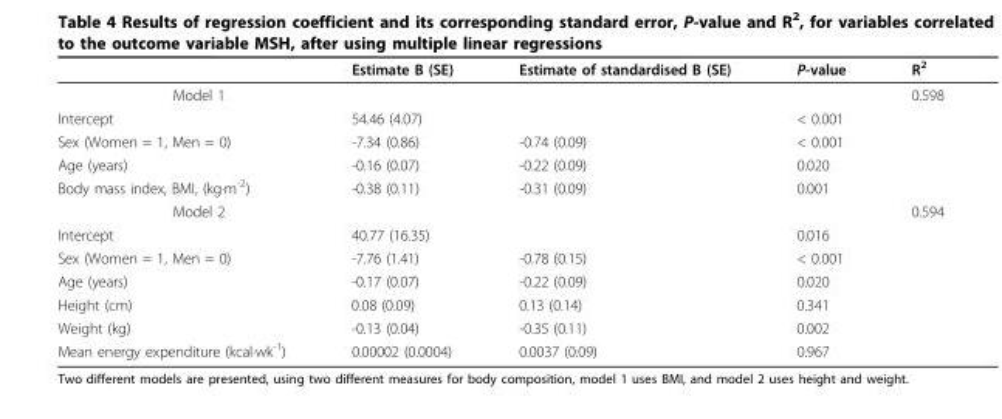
<table><thead><tr><td></td><td>Estimate B (SE)</td><td>Estimate of standardised B (SE)</td><td>P-value</td><td>R<sup>2</sup></td></tr></thead><tbody><tr><td>Model 1</td><td></td><td></td><td></td><td>0.598</td></tr><tr><td>Intercept</td><td>54.46 (4.07)</td><td></td><td>&lt; 0.001</td><td></td></tr><tr><td>Sex (Women = 1, Men = 0)</td><td>-7.34 (0.86)</td><td>-0.74 (0.09)</td><td>&lt; 0.001</td><td></td></tr><tr><td>Age (years)</td><td>-0.16 (0.07)</td><td>-0.22 (0.09)</td><td>0.020</td><td></td></tr><tr><td>Body mass index, BMI, (kg·m<sup>-2</sup>)</td><td>-0.38 (0.11)</td><td>-0.31 (0.09)</td><td>0.001</td><td></td></tr><tr><td>Model 2</td><td></td><td></td><td></td><td>0.594</td></tr><tr><td>Intercept</td><td>40.77 (16.35)</td><td></td><td>0.016</td><td></td></tr><tr><td>Sex (Women = 1, Men = 0)</td><td>-7.76 (1.41)</td><td>-0.78 (0.15)</td><td>&lt; 0.001</td><td></td></tr><tr><td>Age (years)</td><td>-0.17 (0.07)</td><td>-0.22 (0.09)</td><td>0.020</td><td></td></tr><tr><td>Height (cm)</td><td>0.08 (0.09)</td><td>0.13 (0.14)</td><td>0.341</td><td></td></tr><tr><td>Weight (kg)</td><td>-0.13 (0.04)</td><td>-0.35 (0.11)</td><td>0.002</td><td></td></tr><tr><td>Mean energy expenditure (kcal·wk<sup>-1</sup>)</td><td>0.00002 (0.0004)</td><td>0.0037 (0.09)</td><td>0.967</td><td></td></tr></tbody></table>